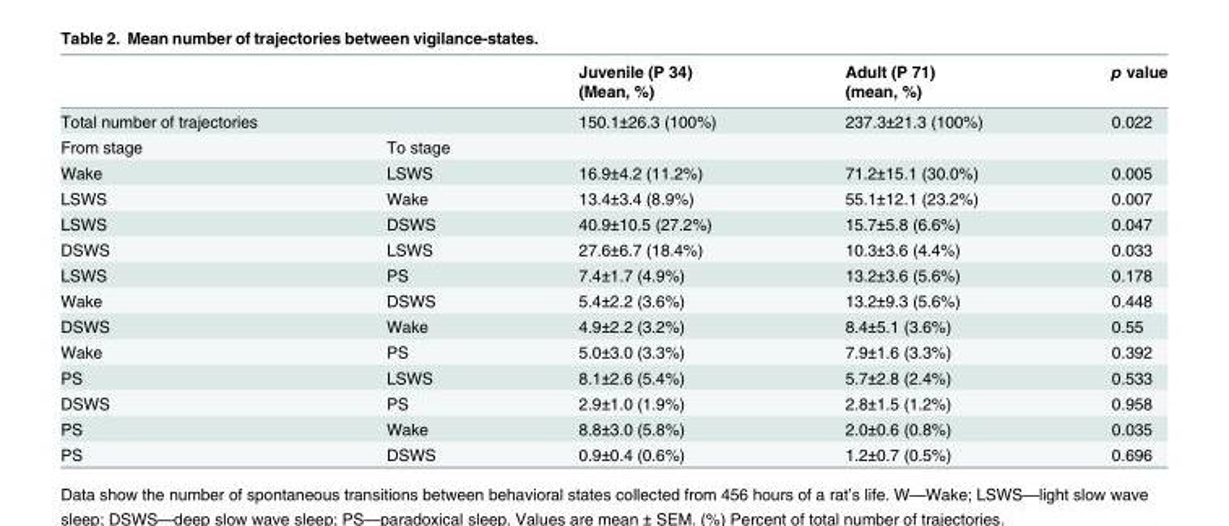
<table><thead><tr><td rowspan="2"></td><td rowspan="2"></td><td rowspan="2">Juvenile (P 34) (Mean, %)</td><td rowspan="2">Adult (P 71) (mean, %)</td><td rowspan="2">p value</td></tr><tr></tr></thead><tbody><tr><td>Total number of trajectories</td><td></td><td>150.1±26.3 (100%)</td><td>237.3±21.3 (100%)</td><td>0.022</td></tr><tr><td>From stage</td><td>To stage</td><td></td><td></td><td></td></tr><tr><td>Wake</td><td>LSWS</td><td>16.9±4.2 (11.2%)</td><td>71.2±15.1 (30.0%)</td><td>0.005</td></tr><tr><td>LSWS</td><td>Wake</td><td>13.4±3.4 (8.9%)</td><td>55.1±12.1 (23.2%)</td><td>0.007</td></tr><tr><td>LSWS</td><td>DSWS</td><td>40.9±10.5 (27.2%)</td><td>15.7±5.8 (6.6%)</td><td>0.047</td></tr><tr><td>DSWS</td><td>LSWS</td><td>27.6±6.7 (18.4%)</td><td>10.3±3.6 (4.4%)</td><td>0.033</td></tr><tr><td>LSWS</td><td>PS</td><td>7.4±1.7 (4.9%)</td><td>13.2±3.6 (5.6%)</td><td>0.178</td></tr><tr><td>Wake</td><td>DSWS</td><td>5.4±2.2 (3.6%)</td><td>13.2±9.3 (5.6%)</td><td>0.448</td></tr><tr><td>DSWS</td><td>Wake</td><td>4.9±2.2 (3.2%)</td><td>8.4±5.1 (3.6%)</td><td>0.55</td></tr><tr><td>Wake</td><td>PS</td><td>5.0±3.0 (3.3%)</td><td>7.9±1.6 (3.3%)</td><td>0.392</td></tr><tr><td>PS</td><td>LSWS</td><td>8.1±2.6 (5.4%)</td><td>5.7±2.8 (2.4%)</td><td>0.533</td></tr><tr><td>DSWS</td><td>PS</td><td>2.9±1.0 (1.9%)</td><td>2.8±1.5 (1.2%)</td><td>0.958</td></tr><tr><td>PS</td><td>Wake</td><td>8.8±3.0 (5.8%)</td><td>2.0±0.6 (0.8%)</td><td>0.035</td></tr><tr><td>PS</td><td>DSWS</td><td>0.9±0.4 (0.6%)</td><td>1.2±0.7 (0.5%)</td><td>0.696</td></tr></tbody></table>